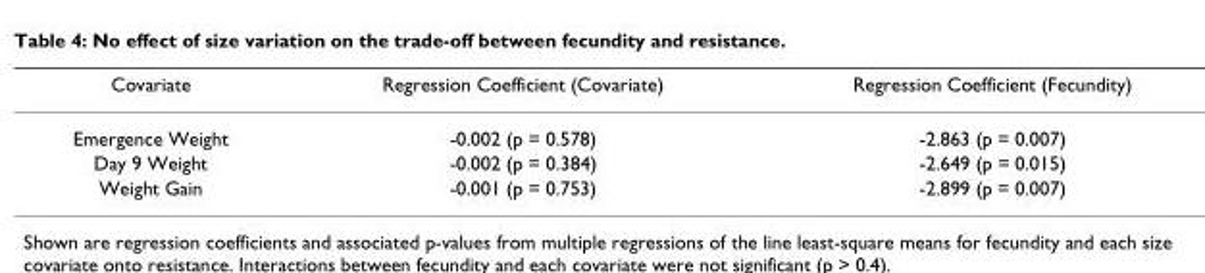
<table><thead><tr><td>Covariate</td><td>Regression Coefficient (Covariate)</td><td>Regression Coefficient (Fecundity)</td></tr></thead><tbody><tr><td>Emergence Weight</td><td>-0.002 (p = 0.578)</td><td>-2.863 (p = 0.007)</td></tr><tr><td>Day 9 Weight</td><td>-0.002 (p = 0.384)</td><td>-2.649 (p = 0.015)</td></tr><tr><td>Weight Gain</td><td>-0.001 (p = 0.753)</td><td>-2.899 (p = 0.007)</td></tr></tbody></table>